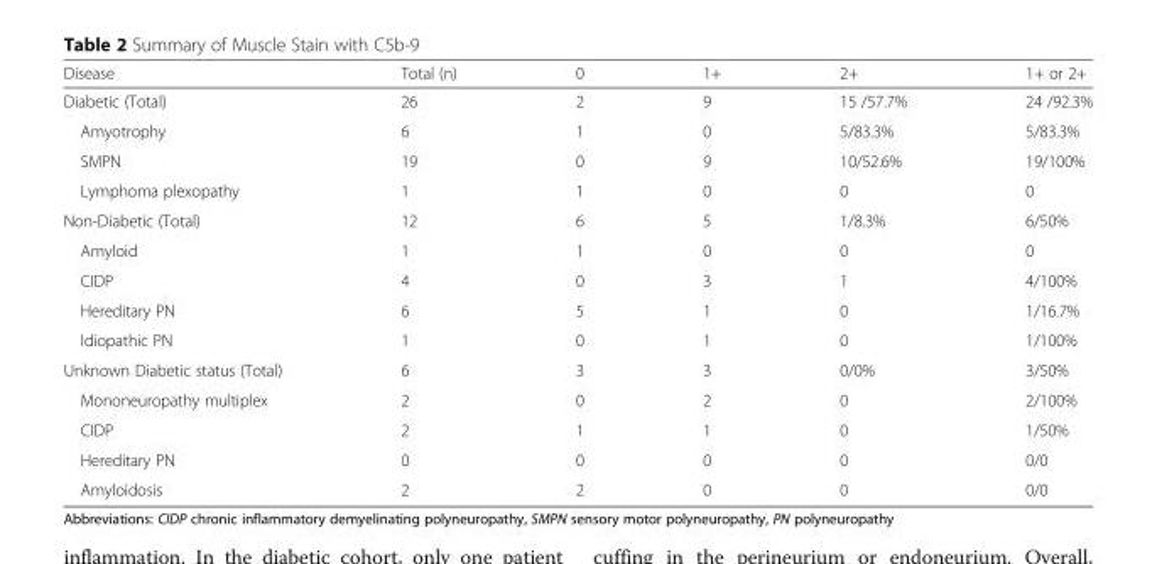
<table><thead><tr><td>Disease</td><td>Total (n)</td><td>0</td><td>1+</td><td>2+</td><td>1+ or 2+</td></tr></thead><tbody><tr><td>Diabetic (Total)</td><td>26</td><td>2</td><td>9</td><td>15 /57.7%</td><td>24 /92.3%</td></tr><tr><td>Amyotrophy</td><td>6</td><td>1</td><td>0</td><td>5/83.3%</td><td>5/83.3%</td></tr><tr><td>SMPN</td><td>19</td><td>0</td><td>9</td><td>10/52.6%</td><td>19/100%</td></tr><tr><td>Lymphoma plexopathy</td><td>1</td><td>1</td><td>0</td><td>0</td><td>0</td></tr><tr><td>Non-Diabetic (Total)</td><td>12</td><td>6</td><td>5</td><td>1/8.3%</td><td>6/50%</td></tr><tr><td>Amyloid</td><td>1</td><td>1</td><td>0</td><td>0</td><td>0</td></tr><tr><td>CIDP</td><td>4</td><td>0</td><td>3</td><td>1</td><td>4/100%</td></tr><tr><td>Hereditary PN</td><td>6</td><td>5</td><td>1</td><td>0</td><td>1/16.7%</td></tr><tr><td>Idiopathic PN</td><td>1</td><td>0</td><td>1</td><td>0</td><td>1/100%</td></tr><tr><td>Unknown Diabetic status (Total)</td><td>6</td><td>3</td><td>3</td><td>0/0%</td><td>3/50%</td></tr><tr><td>Mononeuropathy multiplex</td><td>2</td><td>0</td><td>2</td><td>0</td><td>2/100%</td></tr><tr><td>CIDP</td><td>2</td><td>1</td><td>1</td><td>0</td><td>1/50%</td></tr><tr><td>Hereditary PN</td><td>0</td><td>0</td><td>0</td><td>0</td><td>0/0</td></tr><tr><td>Amyloidosis</td><td>2</td><td>2</td><td>0</td><td>0</td><td>0/0</td></tr></tbody></table>